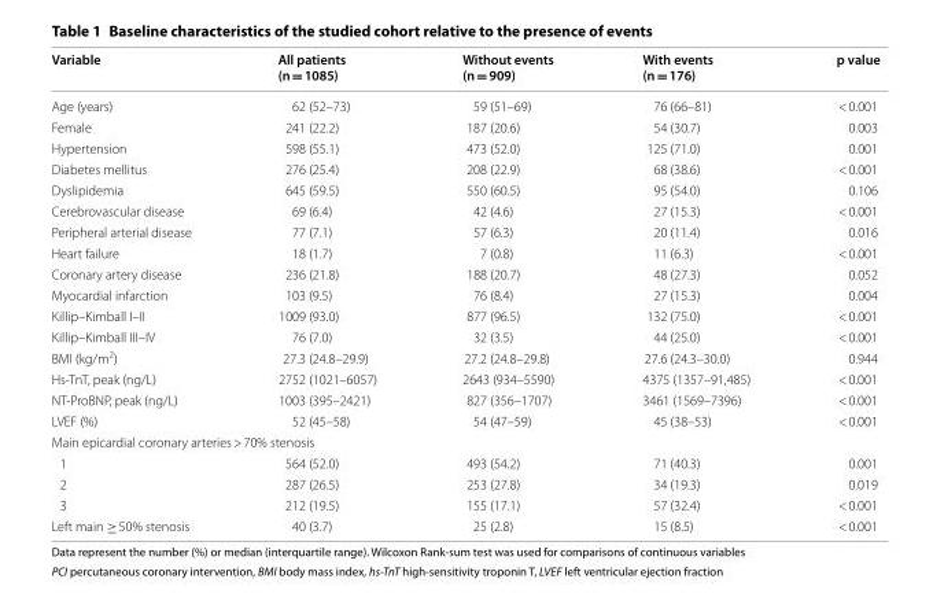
<table><thead><tr><td>Variable</td><td>All patients (n = 1085)</td><td>Without events (n = 909)</td><td>With events (n = 176)</td><td>p value</td></tr></thead><tbody><tr><td>Age (years)</td><td>62 (52–73)</td><td>59 (51–69)</td><td>76 (66–81)</td><td>&lt; 0.001</td></tr><tr><td>Female</td><td>241 (22.2)</td><td>187 (20.6)</td><td>54 (30.7)</td><td>0.003</td></tr><tr><td>Hypertension</td><td>598 (55.1)</td><td>473 (52.0)</td><td>125 (71.0)</td><td>0.001</td></tr><tr><td>Diabetes mellitus</td><td>276 (25.4)</td><td>208 (22.9)</td><td>68 (38.6)</td><td>&lt; 0.001</td></tr><tr><td>Dyslipidemia</td><td>645 (59.5)</td><td>550 (60.5)</td><td>95 (54.0)</td><td>0.106</td></tr><tr><td>Cerebrovascular disease</td><td>69 (6.4)</td><td>42 (4.6)</td><td>27 (15.3)</td><td>&lt; 0.001</td></tr><tr><td>Peripheral arterial disease</td><td>77 (7.1)</td><td>57 (6.3)</td><td>20 (11.4)</td><td>0.016</td></tr><tr><td>Heart failure</td><td>18 (1.7)</td><td>7 (0.8)</td><td>11 (6.3)</td><td>&lt; 0.001</td></tr><tr><td>Coronary artery disease</td><td>236 (21.8)</td><td>188 (20.7)</td><td>48 (27.3)</td><td>0.052</td></tr><tr><td>Myocardial infarction</td><td>103 (9.5)</td><td>76 (8.4)</td><td>27 (15.3)</td><td>0.004</td></tr><tr><td>Killip–Kimball I–II</td><td>1009 (93.0)</td><td>877 (96.5)</td><td>132 (75.0)</td><td>&lt; 0.001</td></tr><tr><td>Killip–Kimball III–IV</td><td>76 (7.0)</td><td>32 (3.5)</td><td>44 (25.0)</td><td>&lt; 0.001</td></tr><tr><td>BMI (kg/m<sup>2</sup>)</td><td>27.3 (24.8–29.9)</td><td>27.2 (24.8–29.8)</td><td>27.6 (24.3–30.0)</td><td>0.944</td></tr><tr><td>Hs‑TnT, peak (ng/L)</td><td>2752 (1021–6057)</td><td>2643 (934–5590)</td><td>4375 (1357–91,485)</td><td>&lt; 0.001</td></tr><tr><td>NT‑ProBNP, peak (ng/L)</td><td>1003 (395–2421)</td><td>827 (356–1707)</td><td>3461 (1569–7396)</td><td>&lt; 0.001</td></tr><tr><td>LVEF (%)</td><td>52 (45–58)</td><td>54 (47–59)</td><td>45 (38–53)</td><td>&lt; 0.001</td></tr><tr><td colspan="5">Main epicardial coronary arteries &gt; 70% stenosis</td></tr><tr><td>1</td><td>564 (52.0)</td><td>493 (54.2)</td><td>71 (40.3)</td><td>0.001</td></tr><tr><td>2</td><td>287 (26.5)</td><td>253 (27.8)</td><td>34 (19.3)</td><td>0.019</td></tr><tr><td>3</td><td>212 (19.5)</td><td>155 (17.1)</td><td>57 (32.4)</td><td>&lt; 0.001</td></tr><tr><td>Left main ≥ 50% stenosis</td><td>40 (3.7)</td><td>25 (2.8)</td><td>15 (8.5)</td><td>&lt; 0.001</td></tr></tbody></table>